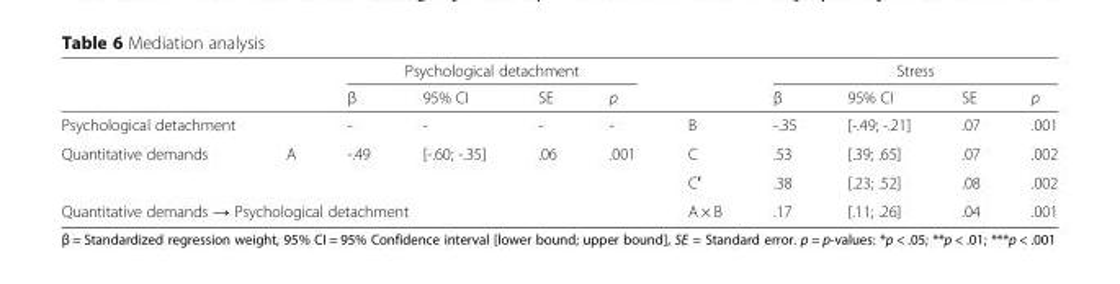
<table><thead><tr><td rowspan="2"></td><td rowspan="2"></td><td colspan="4">Psychological detachment</td><td rowspan="2"></td><td colspan="4">Stress</td></tr><tr><td>β</td><td>95% CI</td><td>SE</td><td>p</td><td>β</td><td>95% CI</td><td>SE</td><td>p</td></tr></thead><tbody><tr><td>Psychological detachment</td><td></td><td>-</td><td>-</td><td>-</td><td>-</td><td>B</td><td>-.35</td><td>[-.49; -.21]</td><td>.07</td><td>.001</td></tr><tr><td rowspan="2">Quantitative demands</td><td>A</td><td>-.49</td><td>[-.60; -.35]</td><td>.06</td><td>.001</td><td>C</td><td>.53</td><td>[.39; .65]</td><td>.07</td><td>.002</td></tr><tr><td></td><td></td><td></td><td></td><td></td><td>C′</td><td>.38</td><td>[.23; .52]</td><td>.08</td><td>.002</td></tr><tr><td colspan="6">Quantitative demands → Psychological detachment</td><td>A × B</td><td>.17</td><td>[.11; .26]</td><td>.04</td><td>.001</td></tr></tbody></table>